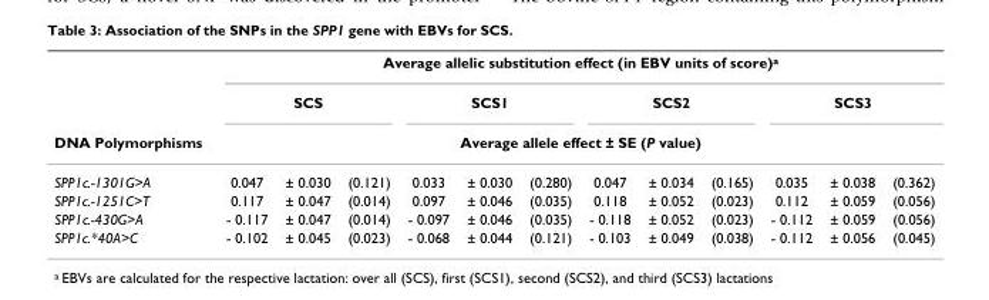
<table><thead><tr><td rowspan="4">DNA Polymorphisms SPP1c.-1301G&gt;A</td><td colspan="12">Average allelic substitution effect (in EBV units of score)<sup>a</sup></td></tr><tr><td colspan="3">SCS</td><td colspan="3">SCS1</td><td colspan="3">SCS2</td><td colspan="3">SCS3</td></tr><tr><td rowspan="2">0.047</td><td rowspan="2">± 0.030</td><td rowspan="2">(0.121)</td><td colspan="6">Average allele effect ± SE (P value)</td><td rowspan="2">0.035</td><td rowspan="2">± 0.038</td><td rowspan="2">(0.362)</td></tr><tr><td>0.033</td><td>± 0.030</td><td>(0.280)</td><td>0.047</td><td>± 0.034</td><td>(0.165)</td></tr></thead><tbody><tr><td>SPP1c.-1251C&gt;T</td><td>0.117</td><td>± 0.047</td><td>(0.014)</td><td>0.097</td><td>± 0.046</td><td>(0.035)</td><td>0.118</td><td>± 0.052</td><td>(0.023)</td><td>0.112</td><td>± 0.059</td><td>(0.056)</td></tr><tr><td>SPP1c.-430G&gt;A</td><td>- 0.117</td><td>± 0.047</td><td>(0.014)</td><td>- 0.097</td><td>± 0.046</td><td>(0.035)</td><td>- 0.118</td><td>± 0.052</td><td>(0.023)</td><td>- 0.112</td><td>± 0.059</td><td>(0.056)</td></tr><tr><td>SPP1c.*40A&gt;C</td><td>- 0.102</td><td>± 0.045</td><td>(0.023)</td><td>- 0.068</td><td>± 0.044</td><td>(0.121)</td><td>- 0.103</td><td>± 0.049</td><td>(0.038)</td><td>- 0.112</td><td>± 0.056</td><td>(0.045)</td></tr></tbody></table>